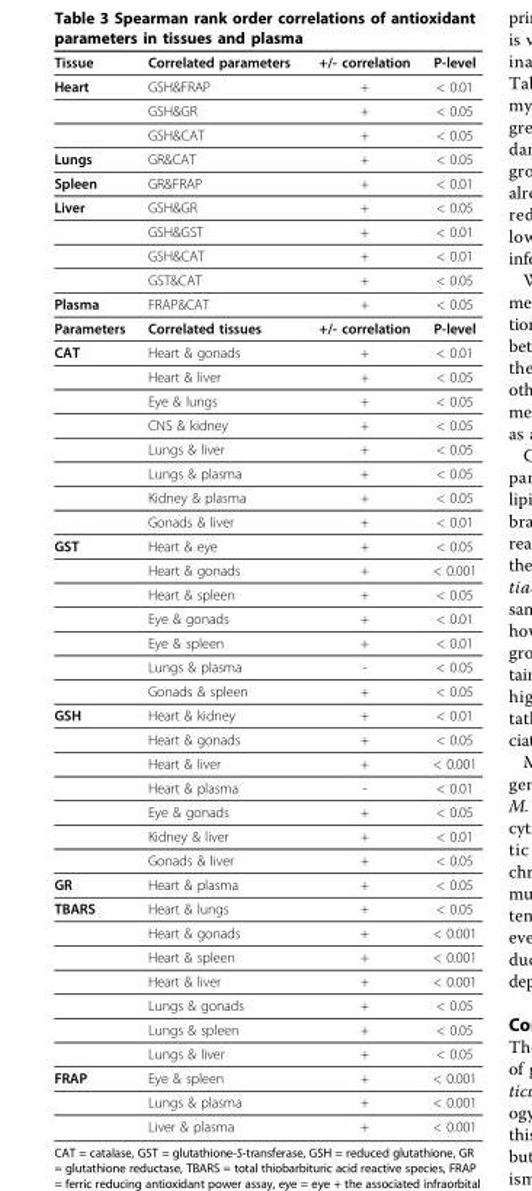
<table><thead><tr><td>Tissue</td><td>Correlated parameters</td><td>+/- correlation</td><td>P-level</td></tr></thead><tbody><tr><td rowspan="3">Heart</td><td>GSH&amp;FRAP</td><td>+</td><td>&lt; 0.01</td></tr><tr><td>GSH&amp;GR</td><td>+</td><td>&lt; 0.05</td></tr><tr><td>GSH&amp;CAT</td><td>+</td><td>&lt; 0.05</td></tr><tr><td>Lungs</td><td>GR&amp;CAT</td><td>+</td><td>&lt; 0.05</td></tr><tr><td>Spleen</td><td>GR&amp;FRAP</td><td>+</td><td>&lt; 0.01</td></tr><tr><td rowspan="4">Liver</td><td>GSH&amp;GR</td><td>+</td><td>&lt; 0.05</td></tr><tr><td>GSH&amp;GST</td><td>+</td><td>&lt; 0.01</td></tr><tr><td>GSH&amp;CAT</td><td>+</td><td>&lt; 0.01</td></tr><tr><td>GST&amp;CAT</td><td>+</td><td>&lt; 0.05</td></tr><tr><td>Plasma</td><td>FRAP&amp;CAT</td><td>+</td><td>&lt; 0.05</td></tr><tr><td>Parameters</td><td>Correlated tissues</td><td>+/- correlation</td><td>P-level</td></tr><tr><td rowspan="8">CAT</td><td>Heart &amp; gonads</td><td>+</td><td>&lt; 0.01</td></tr><tr><td>Heart &amp; liver</td><td>+</td><td>&lt; 0.05</td></tr><tr><td>Eye &amp; lungs</td><td>+</td><td>&lt; 0.05</td></tr><tr><td>CNS &amp; kidney</td><td>+</td><td>&lt; 0.05</td></tr><tr><td>Lungs &amp; liver</td><td>+</td><td>&lt; 0.05</td></tr><tr><td>Lungs &amp; plasma</td><td>+</td><td>&lt; 0.05</td></tr><tr><td>Kidney &amp; plasma</td><td>+</td><td>&lt; 0.05</td></tr><tr><td>Gonads &amp; liver</td><td>+</td><td>&lt; 0.01</td></tr><tr><td rowspan="7">GST</td><td>Heart &amp; eye</td><td>+</td><td>&lt; 0.05</td></tr><tr><td>Heart &amp; gonads</td><td>+</td><td>&lt; 0.001</td></tr><tr><td>Heart &amp; spleen</td><td>+</td><td>&lt; 0.05</td></tr><tr><td>Eye &amp; gonads</td><td>+</td><td>&lt; 0.01</td></tr><tr><td>Eye &amp; spleen</td><td>+</td><td>&lt; 0.01</td></tr><tr><td>Lungs &amp; plasma</td><td>-</td><td>&lt; 0.05</td></tr><tr><td>Gonads &amp; spleen</td><td>+</td><td>&lt; 0.05</td></tr><tr><td rowspan="7">GSH</td><td>Heart &amp; kidney</td><td>+</td><td>&lt; 0.01</td></tr><tr><td>Heart &amp; gonads</td><td>+</td><td>&lt; 0.05</td></tr><tr><td>Heart &amp; liver</td><td>+</td><td>&lt; 0.001</td></tr><tr><td>Heart &amp; plasma</td><td>-</td><td>&lt; 0.01</td></tr><tr><td>Eye &amp; gonads</td><td>+</td><td>&lt; 0.05</td></tr><tr><td>Kidney &amp; liver</td><td>+</td><td>&lt; 0.01</td></tr><tr><td>Gonads &amp; liver</td><td>+</td><td>&lt; 0.05</td></tr><tr><td>GR</td><td>Heart &amp; plasma</td><td>+</td><td>&lt; 0.05</td></tr><tr><td rowspan="7">TBARS</td><td>Heart &amp; lungs</td><td>+</td><td>&lt; 0.05</td></tr><tr><td>Heart &amp; gonads</td><td>+</td><td>&lt; 0.001</td></tr><tr><td>Heart &amp; spleen</td><td>+</td><td>&lt; 0.001</td></tr><tr><td>Heart &amp; liver</td><td>+</td><td>&lt; 0.001</td></tr><tr><td>Lungs &amp; gonads</td><td>+</td><td>&lt; 0.05</td></tr><tr><td>Lungs &amp; spleen</td><td>+</td><td>&lt; 0.05</td></tr><tr><td>Lungs &amp; liver</td><td>+</td><td>&lt; 0.05</td></tr><tr><td rowspan="3">FRAP</td><td>Eye &amp; spleen</td><td>+</td><td>&lt; 0.001</td></tr><tr><td>Lungs &amp; plasma</td><td>+</td><td>&lt; 0.001</td></tr><tr><td>Liver &amp; plasma</td><td>+</td><td>&lt; 0.001</td></tr></tbody></table>